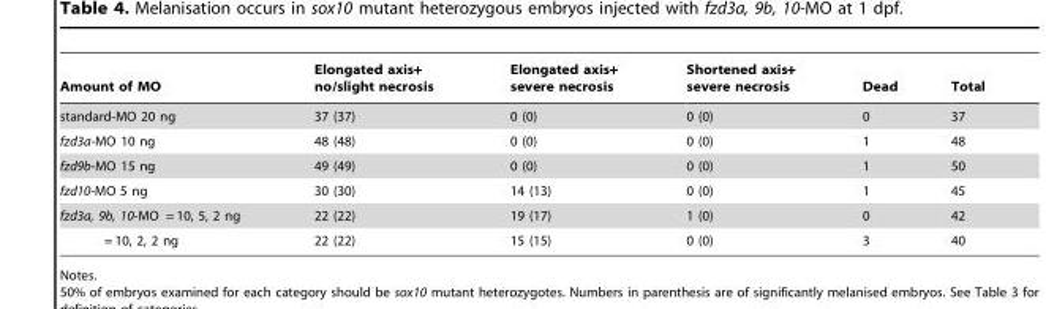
<table><thead><tr><td>Amount of MO</td><td>Elongated axis+ no/slight necrosis</td><td>Elongated axis+ severe necrosis</td><td>Shortened axis+ severe necrosis</td><td>Dead</td><td>Total</td></tr></thead><tbody><tr><td>standard-MO 20 ng</td><td>37 (37)</td><td>0 (0)</td><td>0 (0)</td><td>0</td><td>37</td></tr><tr><td>fzd3a-MO 10 ng</td><td>48 (48)</td><td>0 (0)</td><td>0 (0)</td><td>1</td><td>48</td></tr><tr><td>fzd9b-MO 15 ng</td><td>49 (49)</td><td>0 (0)</td><td>0 (0)</td><td>1</td><td>50</td></tr><tr><td>fzd10-MO 5 ng</td><td>30 (30)</td><td>14 (13)</td><td>0 (0)</td><td>1</td><td>45</td></tr><tr><td>fzd3a, 9b, 10-MO = 10, 5, 2 ng</td><td>22 (22)</td><td>19 (17)</td><td>1 (0)</td><td>0</td><td>42</td></tr><tr><td>= 10, 2, 2 ng</td><td>22 (22)</td><td>15 (15)</td><td>0 (0)</td><td>3</td><td>40</td></tr></tbody></table>